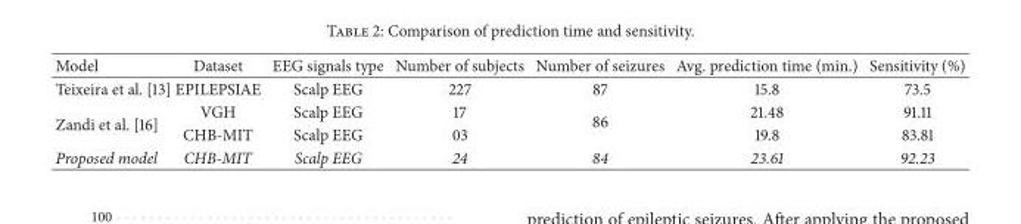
<table><thead><tr><td>Model</td><td>Dataset</td><td>EEG signals type</td><td>Number of subjects</td><td>Number of seizures</td><td>Avg. prediction time (min.)</td><td>Sensitivity (%)</td></tr></thead><tbody><tr><td>Teixeira et al. [13]</td><td>EPILEPSIAE</td><td>Scalp EEG</td><td>227</td><td>87</td><td>15.8</td><td>73.5</td></tr><tr><td rowspan="2">Zandi et al. [16]</td><td>VGH</td><td>Scalp EEG</td><td>17</td><td rowspan="2">86</td><td>21.48</td><td>91.11</td></tr><tr><td>CHB-MIT</td><td>Scalp EEG</td><td>03</td><td>19.8</td><td>83.81</td></tr><tr><td>Proposed model</td><td>CHB-MIT</td><td>Scalp EEG</td><td>24</td><td>84</td><td>23.61</td><td>92.23</td></tr></tbody></table>